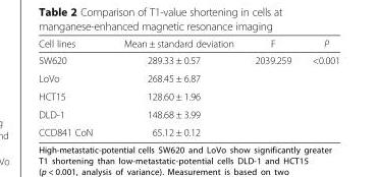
<table><thead><tr><td>Cell lines</td><td>Mean ± standard deviation</td><td>F</td><td>P</td></tr></thead><tbody><tr><td>SW620</td><td>289.33 ± 0.57</td><td>2039.259</td><td>&lt;0.001</td></tr><tr><td>LoVo</td><td>268.45 ± 6.87</td><td></td><td></td></tr><tr><td>HCT15</td><td>128.60 ± 1.96</td><td></td><td></td></tr><tr><td>DLD-1</td><td>148.68 ± 3.99</td><td></td><td></td></tr><tr><td>CCD841 CoN</td><td>65.12 ± 0.12</td><td></td><td></td></tr></tbody></table>